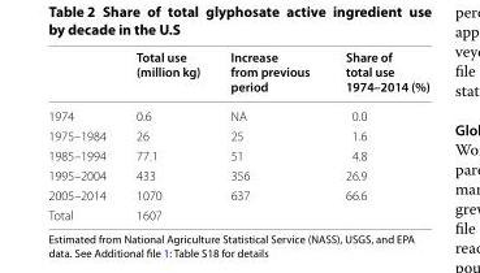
<table><thead><tr><td></td><td>Total use (million kg)</td><td>Increase from previous period</td><td>Share of total use 1974–2014 (%)</td></tr></thead><tbody><tr><td>1974</td><td>0.6</td><td>NA</td><td>0.0</td></tr><tr><td>1975–1984</td><td>26</td><td>25</td><td>1.6</td></tr><tr><td>1985–1994</td><td>77.1</td><td>51</td><td>4.8</td></tr><tr><td>1995–2004</td><td>433</td><td>356</td><td>26.9</td></tr><tr><td>2005–2014</td><td>1070</td><td>637</td><td>66.6</td></tr><tr><td>Total</td><td>1607</td><td></td><td></td></tr></tbody></table>